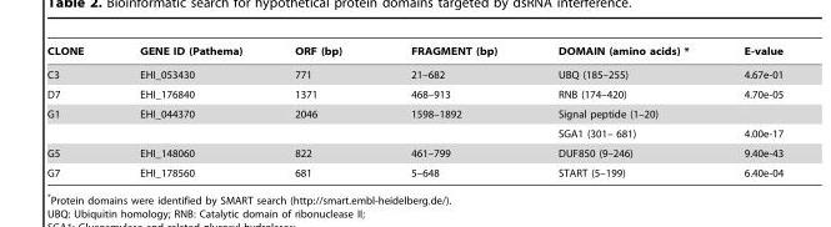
<table><thead><tr><td>CLONE</td><td>GENE ID (Pathema)</td><td>ORF (bp)</td><td>FRAGMENT (bp)</td><td>DOMAIN (amino acids) *</td><td>E-value</td></tr></thead><tbody><tr><td>C3</td><td>EHI_053430</td><td>771</td><td>21–682</td><td>UBQ (185–255)</td><td>4.67e-01</td></tr><tr><td>D7</td><td>EHI_176840</td><td>1371</td><td>468–913</td><td>RNB (174–420)</td><td>4.70e-05</td></tr><tr><td rowspan="2">G1</td><td>EHI_044370</td><td>2046</td><td>1598–1892</td><td>Signal peptide (1–20)</td><td></td></tr><tr><td></td><td></td><td></td><td>SGA1 (301– 681)</td><td>4.00e-17</td></tr><tr><td>G5</td><td>EHI_148060</td><td>822</td><td>461–799</td><td>DUF850 (9–246)</td><td>9.40e-43</td></tr><tr><td>G7</td><td>EHI_178560</td><td>681</td><td>5–648</td><td>START (5–199)</td><td>6.40e-04</td></tr></tbody></table>